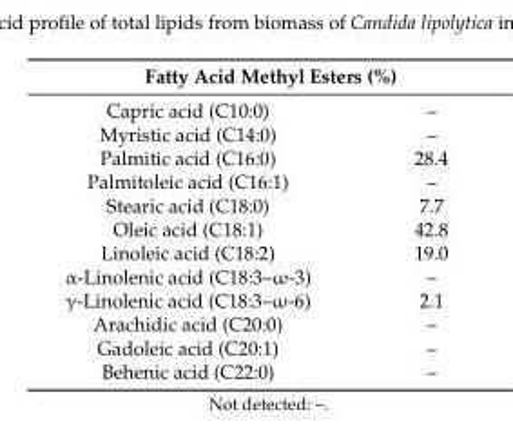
<table><thead><tr><td colspan="2">Fatty Acid Methyl Esters (%)</td></tr><tr><td>Capric acid (C10:0)</td><td>–</td></tr></thead><tbody><tr><td>Myristic acid (C14:0)</td><td>–</td></tr><tr><td>Palmitic acid (C16:0)</td><td>28.4</td></tr><tr><td>Palmitoleic acid (C16:1)</td><td>–</td></tr><tr><td>Stearic acid (C18:0)</td><td>7.7</td></tr><tr><td>Oleic acid (C18:1)</td><td>42.8</td></tr><tr><td>Linoleic acid (C18:2)</td><td>19.0</td></tr><tr><td>α-Linolenic acid (C18:3–ω-3)</td><td>–</td></tr><tr><td>γ-Linolenic acid (C18:3–ω-6)</td><td>2.1</td></tr><tr><td>Arachidic acid (C20:0)</td><td>–</td></tr><tr><td>Gadoleic acid (C20:1)</td><td>–</td></tr><tr><td>Behenic acid (C22:0)</td><td>–</td></tr></tbody></table>